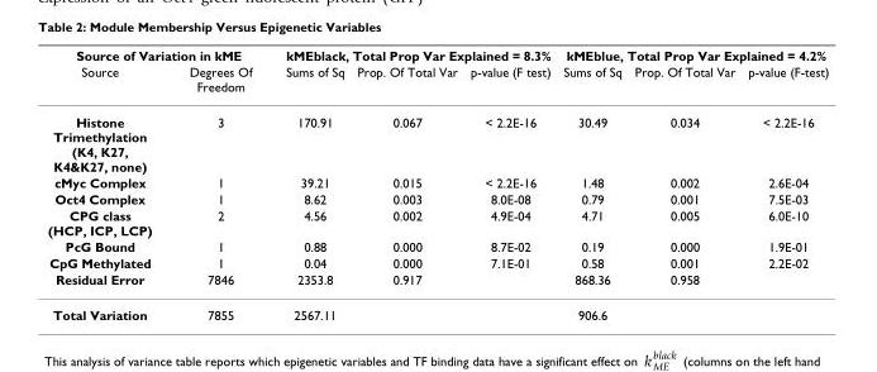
<table><thead><tr><td colspan="2">Source of Variation in kME</td><td colspan="3">kMEblack, Total Prop Var Explained = 8.3%</td><td colspan="3">kMEblue, Total Prop Var Explained = 4.2%</td></tr><tr><td>Source</td><td>Degrees Of Freedom</td><td>Sums of Sq</td><td>Prop. Of Total Var</td><td>p-value (F test)</td><td>Sums of Sq</td><td>Prop. Of Total Var</td><td>p-value (F-test)</td></tr></thead><tbody><tr><td>Histone Trimethylation (K4, K27, K4&amp;K27, none)</td><td>3</td><td>170.91</td><td>0.067</td><td>&lt; 2.2E-16</td><td>30.49</td><td>0.034</td><td>&lt; 2.2E-16</td></tr><tr><td>cMyc Complex</td><td>1</td><td>39.21</td><td>0.015</td><td>&lt; 2.2E-16</td><td>1.48</td><td>0.002</td><td>2.6E-04</td></tr><tr><td>Oct4 Complex</td><td>1</td><td>8.62</td><td>0.003</td><td>8.0E-08</td><td>0.79</td><td>0.001</td><td>7.5E-03</td></tr><tr><td>CPG class (HCP, ICP, LCP)</td><td>2</td><td>4.56</td><td>0.002</td><td>4.9E-04</td><td>4.71</td><td>0.005</td><td>6.0E-10</td></tr><tr><td>PcG Bound</td><td>1</td><td>0.88</td><td>0.000</td><td>8.7E-02</td><td>0.19</td><td>0.000</td><td>1.9E-01</td></tr><tr><td>CpG Methylated</td><td>1</td><td>0.04</td><td>0.000</td><td>7.1E-01</td><td>0.58</td><td>0.001</td><td>2.2E-02</td></tr><tr><td>Residual Error</td><td>7846</td><td>2353.8</td><td>0.917</td><td></td><td>868.36</td><td>0.958</td><td></td></tr><tr><td>Total Variation</td><td>7855</td><td>2567.11</td><td></td><td></td><td>906.6</td><td></td><td></td></tr></tbody></table>